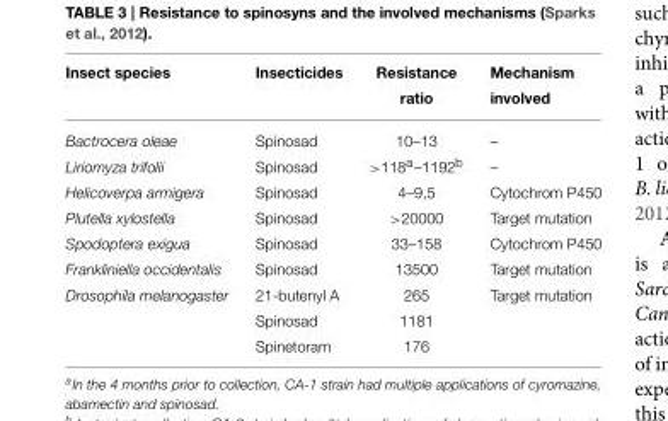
<table><thead><tr><td>Insect species</td><td>Insecticides</td><td>Resistance ratio</td><td>Mechanism involved</td></tr></thead><tbody><tr><td>Bactrocera oleae</td><td>Spinosad</td><td>10–13</td><td>–</td></tr><tr><td>Liriomyza trifolii</td><td>Spinosad</td><td>&gt;118<sup>a</sup>–1192<sup>b</sup></td><td>–</td></tr><tr><td>Helicoverpa armigera</td><td>Spinosad</td><td>4–9,5</td><td>Cytochrom P450</td></tr><tr><td>Plutella xylostella</td><td>Spinosad</td><td>&gt;20000</td><td>Target mutation</td></tr><tr><td>Spodoptera exigua</td><td>Spinosad</td><td>33–158</td><td>Cytochrom P450</td></tr><tr><td>Frankliniella occidentalis</td><td>Spinosad</td><td>13500</td><td>Target mutation</td></tr><tr><td rowspan="3">Drosophila melanogaster</td><td>21-butenyl A</td><td>265</td><td>Target mutation</td></tr><tr><td>Spinosad</td><td>1181</td><td></td></tr><tr><td>Spinetoram</td><td>176</td><td></td></tr></tbody></table>